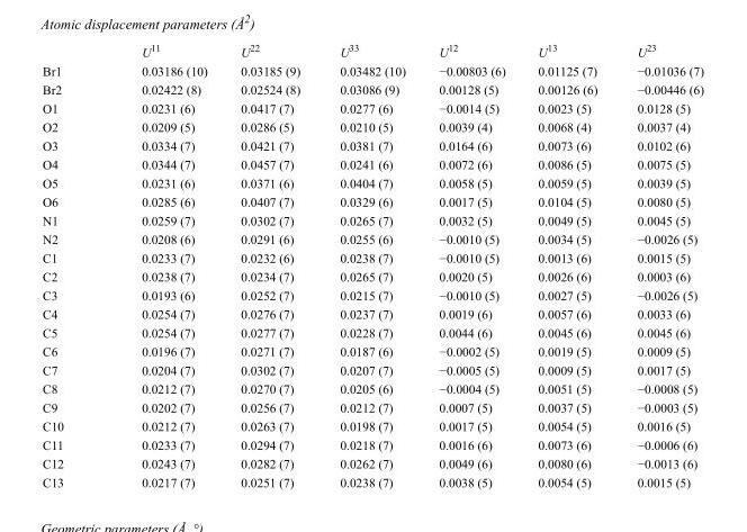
<table><thead><tr><td></td><td>U<sup>11</sup></td><td>U<sup>22</sup></td><td>U<sup>33</sup></td><td>U<sup>12</sup></td><td>U<sup>13</sup></td><td>U<sup>23</sup></td></tr></thead><tbody><tr><td>Br1</td><td>0.03186 (10)</td><td>0.03185 (9)</td><td>0.03482 (10)</td><td>−0.00803 (6)</td><td>0.01125 (7)</td><td>−0.01036 (7)</td></tr><tr><td>Br2</td><td>0.02422 (8)</td><td>0.02524 (8)</td><td>0.03086 (9)</td><td>0.00128 (5)</td><td>0.00126 (6)</td><td>−0.00446 (6)</td></tr><tr><td>O1</td><td>0.0231 (6)</td><td>0.0417 (7)</td><td>0.0277 (6)</td><td>−0.0014 (5)</td><td>0.0023 (5)</td><td>0.0128 (5)</td></tr><tr><td>O2</td><td>0.0209 (5)</td><td>0.0286 (5)</td><td>0.0210 (5)</td><td>0.0039 (4)</td><td>0.0068 (4)</td><td>0.0037 (4)</td></tr><tr><td>O3</td><td>0.0334 (7)</td><td>0.0421 (7)</td><td>0.0381 (7)</td><td>0.0164 (6)</td><td>0.0073 (6)</td><td>0.0102 (6)</td></tr><tr><td>O4</td><td>0.0344 (7)</td><td>0.0457 (7)</td><td>0.0241 (6)</td><td>0.0072 (6)</td><td>0.0086 (5)</td><td>0.0075 (5)</td></tr><tr><td>O5</td><td>0.0231 (6)</td><td>0.0371 (6)</td><td>0.0404 (7)</td><td>0.0058 (5)</td><td>0.0059 (5)</td><td>0.0039 (5)</td></tr><tr><td>O6</td><td>0.0285 (6)</td><td>0.0407 (7)</td><td>0.0329 (6)</td><td>0.0017 (5)</td><td>0.0104 (5)</td><td>0.0080 (5)</td></tr><tr><td>N1</td><td>0.0259 (7)</td><td>0.0302 (7)</td><td>0.0265 (7)</td><td>0.0032 (5)</td><td>0.0049 (5)</td><td>0.0045 (5)</td></tr><tr><td>N2</td><td>0.0208 (6)</td><td>0.0291 (6)</td><td>0.0255 (6)</td><td>−0.0010 (5)</td><td>0.0034 (5)</td><td>−0.0026 (5)</td></tr><tr><td>C1</td><td>0.0233 (7)</td><td>0.0232 (6)</td><td>0.0238 (7)</td><td>−0.0010 (5)</td><td>0.0013 (6)</td><td>0.0015 (5)</td></tr><tr><td>C2</td><td>0.0238 (7)</td><td>0.0234 (7)</td><td>0.0265 (7)</td><td>0.0020 (5)</td><td>0.0026 (6)</td><td>0.0003 (6)</td></tr><tr><td>C3</td><td>0.0193 (6)</td><td>0.0252 (7)</td><td>0.0215 (7)</td><td>−0.0010 (5)</td><td>0.0027 (5)</td><td>−0.0026 (5)</td></tr><tr><td>C4</td><td>0.0254 (7)</td><td>0.0276 (7)</td><td>0.0237 (7)</td><td>0.0019 (6)</td><td>0.0057 (6)</td><td>0.0033 (6)</td></tr><tr><td>C5</td><td>0.0254 (7)</td><td>0.0277 (7)</td><td>0.0228 (7)</td><td>0.0044 (6)</td><td>0.0045 (6)</td><td>0.0045 (6)</td></tr><tr><td>C6</td><td>0.0196 (7)</td><td>0.0271 (7)</td><td>0.0187 (6)</td><td>−0.0002 (5)</td><td>0.0019 (5)</td><td>0.0009 (5)</td></tr><tr><td>C7</td><td>0.0204 (7)</td><td>0.0302 (7)</td><td>0.0207 (7)</td><td>−0.0005 (5)</td><td>0.0009 (5)</td><td>0.0017 (5)</td></tr><tr><td>C8</td><td>0.0212 (7)</td><td>0.0270 (7)</td><td>0.0205 (6)</td><td>−0.0004 (5)</td><td>0.0051 (5)</td><td>−0.0008 (5)</td></tr><tr><td>C9</td><td>0.0202 (7)</td><td>0.0256 (7)</td><td>0.0212 (7)</td><td>0.0007 (5)</td><td>0.0037 (5)</td><td>−0.0003 (5)</td></tr><tr><td>C10</td><td>0.0212 (7)</td><td>0.0263 (7)</td><td>0.0198 (7)</td><td>0.0017 (5)</td><td>0.0054 (5)</td><td>0.0016 (5)</td></tr><tr><td>C11</td><td>0.0233 (7)</td><td>0.0294 (7)</td><td>0.0218 (7)</td><td>0.0016 (6)</td><td>0.0073 (6)</td><td>−0.0006 (6)</td></tr><tr><td>C12</td><td>0.0243 (7)</td><td>0.0282 (7)</td><td>0.0262 (7)</td><td>0.0049 (6)</td><td>0.0080 (6)</td><td>−0.0013 (6)</td></tr><tr><td>C13</td><td>0.0217 (7)</td><td>0.0251 (7)</td><td>0.0238 (7)</td><td>0.0038 (5)</td><td>0.0054 (5)</td><td>0.0015 (5)</td></tr></tbody></table>